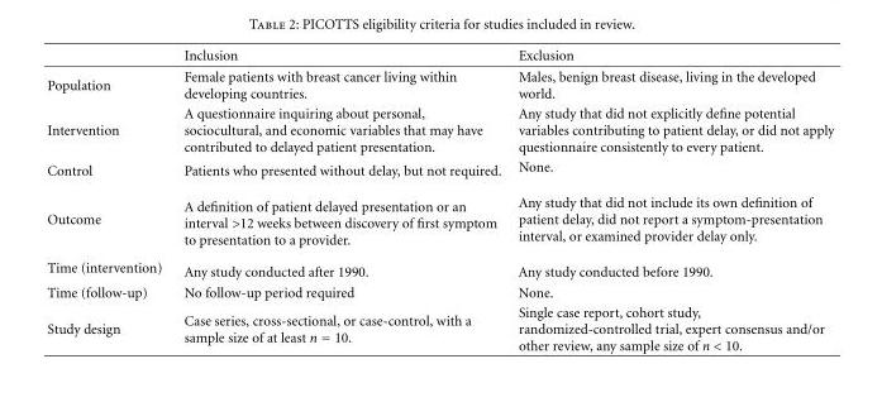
<table><thead><tr><td></td><td>Inclusion</td><td>Exclusion</td></tr></thead><tbody><tr><td>Population</td><td>Female patients with breast cancer living within developing countries.</td><td>Males, benign breast disease, living in the developed world.</td></tr><tr><td>Intervention</td><td>A questionnaire inquiring about personal, sociocultural, and economic variables that may have contributed to delayed patient presentation.</td><td>Any study that did not explicitly define potential variables contributing to patient delay, or did not apply questionnaire consistently to every patient.</td></tr><tr><td>Control</td><td>Patients who presented without delay, but not required.</td><td>None.</td></tr><tr><td>Outcome</td><td>A definition of patient delayed presentation or an interval &gt;12 weeks between discovery of first symptom to presentation to a provider.</td><td>Any study that did not include its own definition of patient delay, did not report a symptom-presentation interval, or examined provider delay only.</td></tr><tr><td>Time (intervention)</td><td>Any study conducted after 1990.</td><td>Any study conducted before 1990.</td></tr><tr><td>Time (follow-up)</td><td>No follow-up period required</td><td>None.</td></tr><tr><td>Study design</td><td>Case series, cross-sectional, or case-control, with a sample size of at least n = 10.</td><td>Single case report, cohort study, randomized-controlled trial, expert consensus and/or other review, any sample size of n &lt; 10.</td></tr></tbody></table>